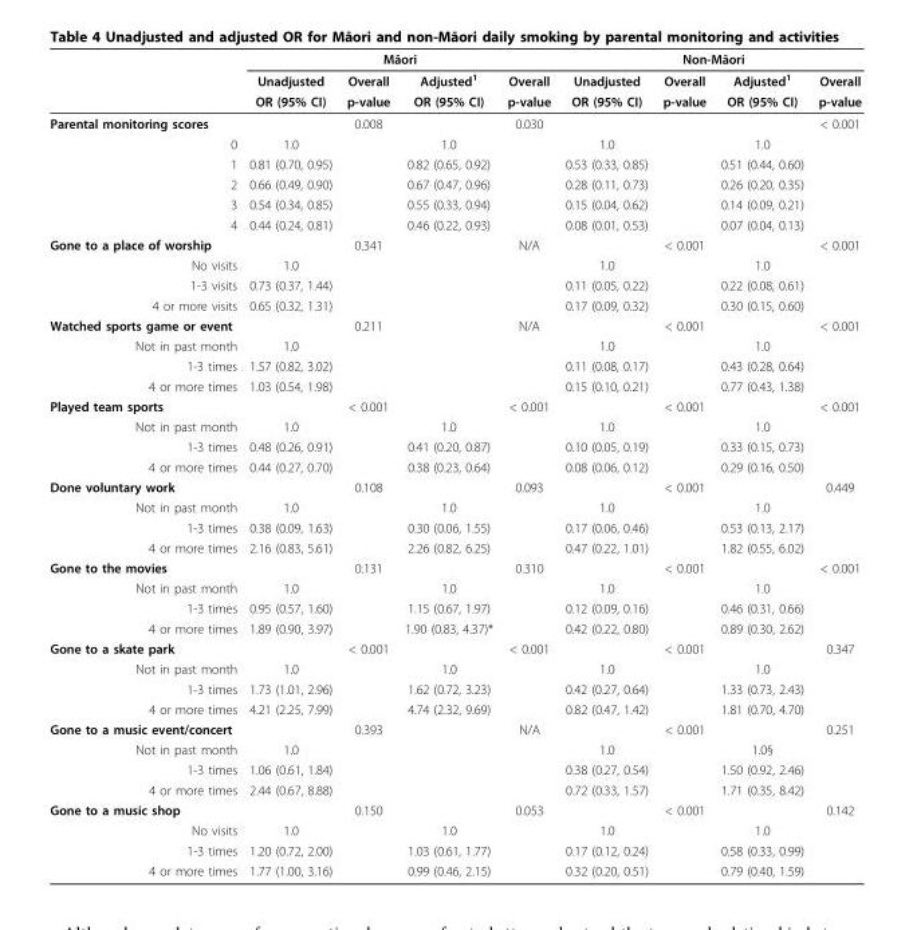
<table><thead><tr><td rowspan="3"></td><td colspan="4">Māori</td><td colspan="4">Non-Māori</td></tr><tr><td rowspan="2">Unadjusted OR (95% CI)</td><td rowspan="2">Overall p-value</td><td rowspan="2">Adjusted<sup>1</sup> OR (95% CI)</td><td rowspan="2">Overall p-value</td><td rowspan="2">Unadjusted OR (95% CI)</td><td rowspan="2">Overall p-value</td><td rowspan="2">Adjusted<sup>1</sup> OR (95% CI)</td><td rowspan="2">Overall p-value</td></tr><tr></tr></thead><tbody><tr><td>Parental monitoring scores</td><td></td><td>0.008</td><td></td><td>0.030</td><td></td><td></td><td></td><td>&lt; 0.001</td></tr><tr><td>0</td><td>1.0</td><td></td><td>1.0</td><td></td><td>1.0</td><td></td><td>1.0</td><td></td></tr><tr><td>1</td><td>0.81 (0.70, 0.95)</td><td></td><td>0.82 (0.65, 0.92)</td><td></td><td>0.53 (0.33, 0.85)</td><td></td><td>0.51 (0.44, 0.60)</td><td></td></tr><tr><td>2</td><td>0.66 (0.49, 0.90)</td><td></td><td>0.67 (0.47, 0.96)</td><td></td><td>0.28 (0.11, 0.73)</td><td></td><td>0.26 (0.20, 0.35)</td><td></td></tr><tr><td>3</td><td>0.54 (0.34, 0.85)</td><td></td><td>0.55 (0.33, 0.94)</td><td></td><td>0.15 (0.04, 0.62)</td><td></td><td>0.14 (0.09, 0.21)</td><td></td></tr><tr><td>4</td><td>0.44 (0.24, 0.81)</td><td></td><td>0.46 (0.22, 0.93)</td><td></td><td>0.08 (0.01, 0.53)</td><td></td><td>0.07 (0.04, 0.13)</td><td></td></tr><tr><td>Gone to a place of worship</td><td></td><td>0.341</td><td></td><td>N/A</td><td></td><td>&lt; 0.001</td><td></td><td>&lt; 0.001</td></tr><tr><td>No visits</td><td>1.0</td><td></td><td></td><td></td><td>1.0</td><td></td><td>1.0</td><td></td></tr><tr><td>1-3 visits</td><td>0.73 (0.37, 1.44)</td><td></td><td></td><td></td><td>0.11 (0.05, 0.22)</td><td></td><td>0.22 (0.08, 0.61)</td><td></td></tr><tr><td>4 or more visits</td><td>0.65 (0.32, 1.31)</td><td></td><td></td><td></td><td>0.17 (0.09, 0.32)</td><td></td><td>0.30 (0.15, 0.60)</td><td></td></tr><tr><td>Watched sports game or event</td><td></td><td>0.211</td><td></td><td>N/A</td><td></td><td>&lt; 0.001</td><td></td><td>&lt; 0.001</td></tr><tr><td>Not in past month</td><td>1.0</td><td></td><td></td><td></td><td>1.0</td><td></td><td>1.0</td><td></td></tr><tr><td>1-3 times</td><td>1.57 (0.82, 3.02)</td><td></td><td></td><td></td><td>0.11 (0.08, 0.17)</td><td></td><td>0.43 (0.28, 0.64)</td><td></td></tr><tr><td>4 or more times</td><td>1.03 (0.54, 1.98)</td><td></td><td></td><td></td><td>0.15 (0.10, 0.21)</td><td></td><td>0.77 (0.43, 1.38)</td><td></td></tr><tr><td>Played team sports</td><td></td><td>&lt; 0.001</td><td></td><td>&lt; 0.001</td><td></td><td>&lt; 0.001</td><td></td><td>&lt; 0.001</td></tr><tr><td>Not in past month</td><td>1.0</td><td></td><td>1.0</td><td></td><td>1.0</td><td></td><td>1.0</td><td></td></tr><tr><td>1-3 times</td><td>0.48 (0.26, 0.91)</td><td></td><td>0.41 (0.20, 0.87)</td><td></td><td>0.10 (0.05, 0.19)</td><td></td><td>0.33 (0.15, 0.73)</td><td></td></tr><tr><td>4 or more times</td><td>0.44 (0.27, 0.70)</td><td></td><td>0.38 (0.23, 0.64)</td><td></td><td>0.08 (0.06, 0.12)</td><td></td><td>0.29 (0.16, 0.50)</td><td></td></tr><tr><td>Done voluntary work</td><td></td><td>0.108</td><td></td><td>0.093</td><td></td><td>&lt; 0.001</td><td></td><td>0.449</td></tr><tr><td>Not in past month</td><td>1.0</td><td></td><td>1.0</td><td></td><td>1.0</td><td></td><td>1.0</td><td></td></tr><tr><td>1-3 times</td><td>0.38 (0.09, 1.63)</td><td></td><td>0.30 (0.06, 1.55)</td><td></td><td>0.17 (0.06, 0.46)</td><td></td><td>0.53 (0.13, 2.17)</td><td></td></tr><tr><td>4 or more times</td><td>2.16 (0.83, 5.61)</td><td></td><td>2.26 (0.82, 6.25)</td><td></td><td>0.47 (0.22, 1.01)</td><td></td><td>1.82 (0.55, 6.02)</td><td></td></tr><tr><td>Gone to the movies</td><td></td><td>0.131</td><td></td><td>0.310</td><td></td><td>&lt; 0.001</td><td></td><td>&lt; 0.001</td></tr><tr><td>Not in past month</td><td>1.0</td><td></td><td>1.0</td><td></td><td>1.0</td><td></td><td>1.0</td><td></td></tr><tr><td>1-3 times</td><td>0.95 (0.57, 1.60)</td><td></td><td>1.15 (0.67, 1.97)</td><td></td><td>0.12 (0.09, 0.16)</td><td></td><td>0.46 (0.31, 0.66)</td><td></td></tr><tr><td>4 or more times</td><td>1.89 (0.90, 3.97)</td><td></td><td>1.90 (0.83, 4.37)*</td><td></td><td>0.42 (0.22, 0.80)</td><td></td><td>0.89 (0.30, 2.62)</td><td></td></tr><tr><td>Gone to a skate park</td><td></td><td>&lt; 0.001</td><td></td><td>&lt; 0.001</td><td></td><td>&lt; 0.001</td><td></td><td>0.347</td></tr><tr><td>Not in past month</td><td>1.0</td><td></td><td>1.0</td><td></td><td>1.0</td><td></td><td>1.0</td><td></td></tr><tr><td>1-3 times</td><td>1.73 (1.01, 2.96)</td><td></td><td>1.62 (0.72, 3.23)</td><td></td><td>0.42 (0.27, 0.64)</td><td></td><td>1.33 (0.73, 2.43)</td><td></td></tr><tr><td>4 or more times</td><td>4.21 (2.25, 7.99)</td><td></td><td>4.74 (2.32, 9.69)</td><td></td><td>0.82 (0.47, 1.42)</td><td></td><td>1.81 (0.70, 4.70)</td><td></td></tr><tr><td>Gone to a music event/concert</td><td></td><td>0.393</td><td></td><td>N/A</td><td></td><td>&lt; 0.001</td><td></td><td>0.251</td></tr><tr><td>Not in past month</td><td>1.0</td><td></td><td></td><td></td><td>1.0</td><td></td><td>1.0§</td><td></td></tr><tr><td>1-3 times</td><td>1.06 (0.61, 1.84)</td><td></td><td></td><td></td><td>0.38 (0.27, 0.54)</td><td></td><td>1.50 (0.92, 2.46)</td><td></td></tr><tr><td>4 or more times</td><td>2.44 (0.67, 8.88)</td><td></td><td></td><td></td><td>0.72 (0.33, 1.57)</td><td></td><td>1.71 (0.35, 8.42)</td><td></td></tr><tr><td>Gone to a music shop</td><td></td><td>0.150</td><td></td><td>0.053</td><td></td><td>&lt; 0.001</td><td></td><td>0.142</td></tr><tr><td>No visits</td><td>1.0</td><td></td><td>1.0</td><td></td><td>1.0</td><td></td><td>1.0</td><td></td></tr><tr><td>1-3 times</td><td>1.20 (0.72, 2.00)</td><td></td><td>1.03 (0.61, 1.77)</td><td></td><td>0.17 (0.12, 0.24)</td><td></td><td>0.58 (0.33, 0.99)</td><td></td></tr><tr><td>4 or more times</td><td>1.77 (1.00, 3.16)</td><td></td><td>0.99 (0.46, 2.15)</td><td></td><td>0.32 (0.20, 0.51)</td><td></td><td>0.79 (0.40, 1.59)</td><td></td></tr></tbody></table>